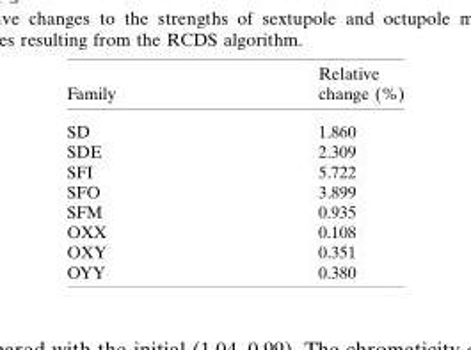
<table><thead><tr><td>Family</td><td>Relative change (%)</td></tr></thead><tbody><tr><td>SD</td><td>1.860</td></tr><tr><td>SDE</td><td>2.309</td></tr><tr><td>SFI</td><td>5.722</td></tr><tr><td>SFO</td><td>3.899</td></tr><tr><td>SFM</td><td>0.935</td></tr><tr><td>OXX</td><td>0.108</td></tr><tr><td>OXY</td><td>0.351</td></tr><tr><td>OYY</td><td>0.380</td></tr></tbody></table>